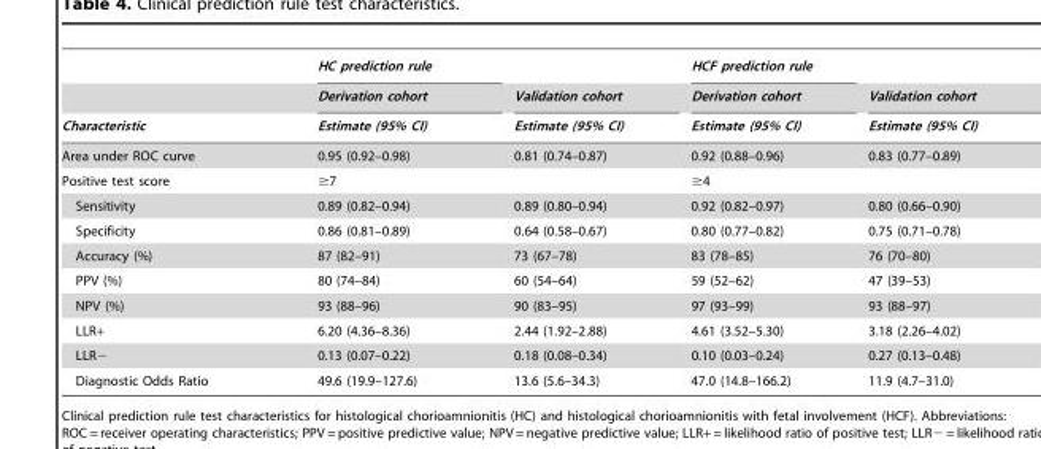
<table><thead><tr><td rowspan="3">Characteristic</td><td rowspan="3">HC prediction rule Derivation cohort Estimate (95% CI)</td><td rowspan="3">Validation cohort Estimate (95% CI)</td><td rowspan="3">HCF prediction rule Derivation cohort Estimate (95% CI)</td><td rowspan="3">Validation cohort Estimate (95% CI)</td></tr><tr></tr><tr></tr></thead><tbody><tr><td>Area under ROC curve</td><td>0.95 (0.92–0.98)</td><td>0.81 (0.74–0.87)</td><td>0.92 (0.88–0.96)</td><td>0.83 (0.77–0.89)</td></tr><tr><td>Positive test score</td><td>≥7</td><td></td><td>≥4</td><td></td></tr><tr><td>Sensitivity</td><td>0.89 (0.82–0.94)</td><td>0.89 (0.80–0.94)</td><td>0.92 (0.82–0.97)</td><td>0.80 (0.66–0.90)</td></tr><tr><td>Specificity</td><td>0.86 (0.81–0.89)</td><td>0.64 (0.58–0.67)</td><td>0.80 (0.77–0.82)</td><td>0.75 (0.71–0.78)</td></tr><tr><td>Accuracy (%)</td><td>87 (82–91)</td><td>73 (67–78)</td><td>83 (78–85)</td><td>76 (70–80)</td></tr><tr><td>PPV (%)</td><td>80 (74–84)</td><td>60 (54–64)</td><td>59 (52–62)</td><td>47 (39–53)</td></tr><tr><td>NPV (%)</td><td>93 (88–96)</td><td>90 (83–95)</td><td>97 (93–99)</td><td>93 (88–97)</td></tr><tr><td>LLR+</td><td>6.20 (4.36–8.36)</td><td>2.44 (1.92–2.88)</td><td>4.61 (3.52–5.30)</td><td>3.18 (2.26–4.02)</td></tr><tr><td>LLR−</td><td>0.13 (0.07–0.22)</td><td>0.18 (0.08–0.34)</td><td>0.10 (0.03–0.24)</td><td>0.27 (0.13–0.48)</td></tr><tr><td>Diagnostic Odds Ratio</td><td>49.6 (19.9–127.6)</td><td>13.6 (5.6–34.3)</td><td>47.0 (14.8–166.2)</td><td>11.9 (4.7–31.0)</td></tr></tbody></table>